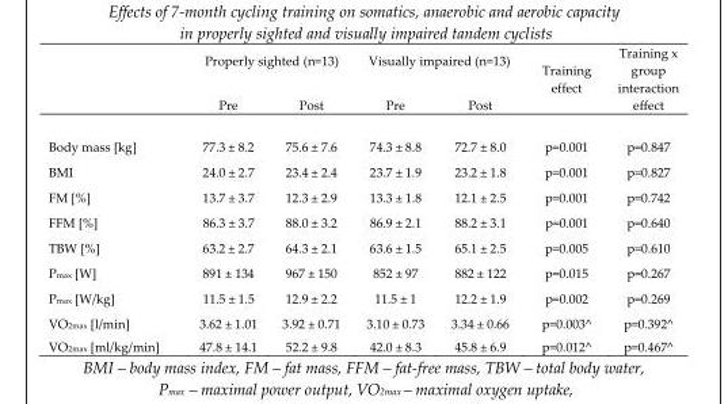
<table><thead><tr><td rowspan="2"></td><td colspan="2">Properly sighted (n=13)</td><td colspan="2">Visually impaired (n=13)</td><td rowspan="2">Training effect</td><td rowspan="2">Training x group interaction effect</td></tr><tr><td>Pre</td><td>Post</td><td>Pre</td><td>Post</td></tr></thead><tbody><tr><td>Body mass [kg]</td><td>77.3 ± 8.2</td><td>75.6 ± 7.6</td><td>74.3 ± 8.8</td><td>72.7 ± 8.0</td><td>p=0.001</td><td>p=0.847</td></tr><tr><td>BMI</td><td>24.0 ± 2.7</td><td>23.4 ± 2.4</td><td>23.7 ± 1.9</td><td>23.2 ± 1.8</td><td>p=0.001</td><td>p=0.827</td></tr><tr><td>FM [%]</td><td>13.7 ± 3.7</td><td>12.3 ± 2.9</td><td>13.3 ± 1.8</td><td>12.1 ± 2.5</td><td>p=0.001</td><td>p=0.742</td></tr><tr><td>FFM [%]</td><td>86.3 ± 3.7</td><td>88.0 ± 3.2</td><td>86.9 ± 2.1</td><td>88.2 ± 3.1</td><td>p=0.001</td><td>p=0.640</td></tr><tr><td>TBW [%]</td><td>63.2 ± 2.7</td><td>64.3 ± 2.1</td><td>63.6 ± 1.5</td><td>65.1 ± 2.5</td><td>p=0.005</td><td>p=0.610</td></tr><tr><td>P<sub>max</sub> [W]</td><td>891 ± 134</td><td>967 ± 150</td><td>852 ± 97</td><td>882 ± 122</td><td>p=0.015</td><td>p=0.267</td></tr><tr><td>P<sub>max</sub> [W/kg]</td><td>11.5 ± 1.5</td><td>12.9 ± 2.2</td><td>11.5 ± 1</td><td>12.2 ± 1.9</td><td>p=0.002</td><td>p=0.269</td></tr><tr><td>VO<sub>2max</sub> [l/min]</td><td>3.62 ± 1.01</td><td>3.92 ± 0.71</td><td>3.10 ± 0.73</td><td>3.34 ± 0.66</td><td>p=0.003^</td><td>p=0.392^</td></tr><tr><td>VO<sub>2max</sub> [ml/kg/min]</td><td>47.8 ± 14.1</td><td>52.2 ± 9.8</td><td>42.0 ± 8.3</td><td>45.8 ± 6.9</td><td>p=0.012^</td><td>p=0.467^</td></tr></tbody></table>